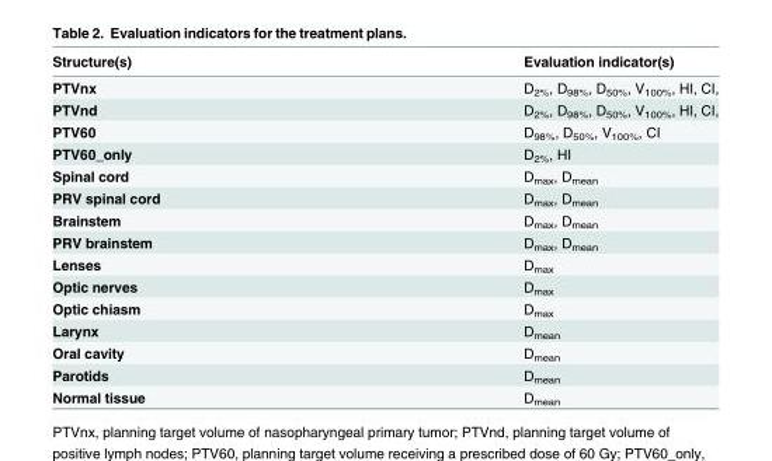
<table><thead><tr><td>Structure(s)</td><td>Evaluation indicator(s)</td></tr></thead><tbody><tr><td>PTVnx</td><td>D<sub>2%</sub>, D<sub>98%</sub>, D<sub>50%</sub>, V<sub>100%</sub>, HI, CI,</td></tr><tr><td>PTVnd</td><td>D<sub>2%</sub>, D<sub>98%</sub>, D<sub>50%</sub>, V<sub>100%</sub>, HI, CI,</td></tr><tr><td>PTV60</td><td>D<sub>98%</sub>, D<sub>50%</sub>, V<sub>100%</sub>, CI</td></tr><tr><td>PTV60_only</td><td>D<sub>2%</sub>, HI</td></tr><tr><td>Spinal cord</td><td>D<sub>max</sub>, D<sub>mean</sub></td></tr><tr><td>PRV spinal cord</td><td>D<sub>max</sub>, D<sub>mean</sub></td></tr><tr><td>Brainstem</td><td>D<sub>max</sub>, D<sub>mean</sub></td></tr><tr><td>PRV brainstem</td><td>D<sub>max</sub>, D<sub>mean</sub></td></tr><tr><td>Lenses</td><td>D<sub>max</sub></td></tr><tr><td>Optic nerves</td><td>D<sub>max</sub></td></tr><tr><td>Optic chiasm</td><td>D<sub>max</sub></td></tr><tr><td>Larynx</td><td>D<sub>mean</sub></td></tr><tr><td>Oral cavity</td><td>D<sub>mean</sub></td></tr><tr><td>Parotids</td><td>D<sub>mean</sub></td></tr><tr><td>Normal tissue</td><td>D<sub>mean</sub></td></tr></tbody></table>